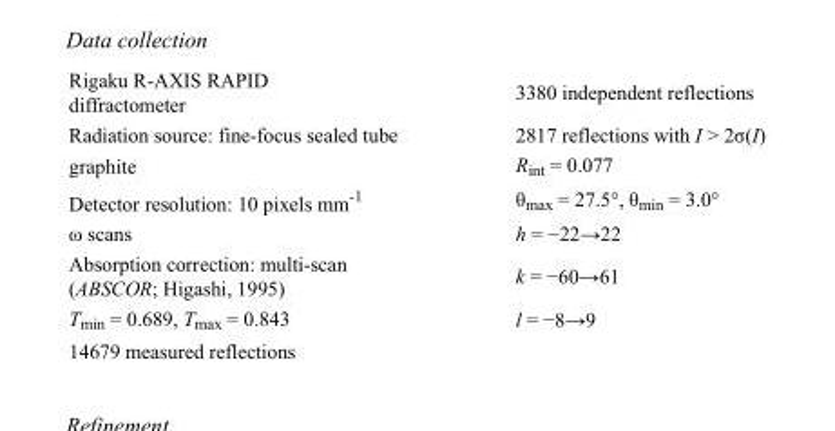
<table><tbody><tr><td>Rigaku R-AXIS RAPID diffractometer</td><td>3380 independent reflections</td></tr><tr><td>Radiation source: fine-focus sealed tube</td><td>2817 reflections with I &gt; 2σ(I)</td></tr><tr><td>graphite</td><td>R<sub>int</sub> = 0.077</td></tr><tr><td>Detector resolution: 10 pixels mm<sup>-1</sup></td><td>θ<sub>max</sub> = 27.5°, θ<sub>min</sub> = 3.0°</td></tr><tr><td>ω scans</td><td>h = −22→22</td></tr><tr><td>Absorption correction: multi-scan (ABSCOR; Higashi, 1995)</td><td>k = −60→61</td></tr><tr><td>T<sub>min</sub> = 0.689, T<sub>max</sub> = 0.843</td><td>l = −8→9</td></tr><tr><td>14679 measured reflections</td><td></td></tr></tbody></table>